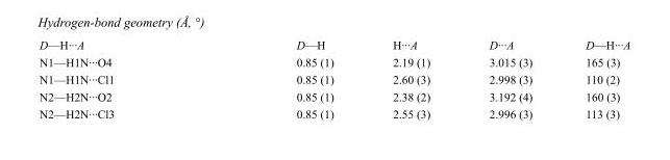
<table><tbody><tr><td>D—H···A</td><td>D—H</td><td>H···A</td><td>D···A</td><td>D—H···A</td></tr><tr><td>N1—H1N···O4</td><td>0.85 (1)</td><td>2.19 (1)</td><td>3.015 (3)</td><td>165 (3)</td></tr><tr><td>N1—H1N···Cl1</td><td>0.85 (1)</td><td>2.60 (3)</td><td>2.998 (3)</td><td>110 (2)</td></tr><tr><td>N2—H2N···O2</td><td>0.85 (1)</td><td>2.38 (2)</td><td>3.192 (4)</td><td>160 (3)</td></tr><tr><td>N2—H2N···Cl3</td><td>0.85 (1)</td><td>2.55 (3)</td><td>2.996 (3)</td><td>113 (3)</td></tr></tbody></table>